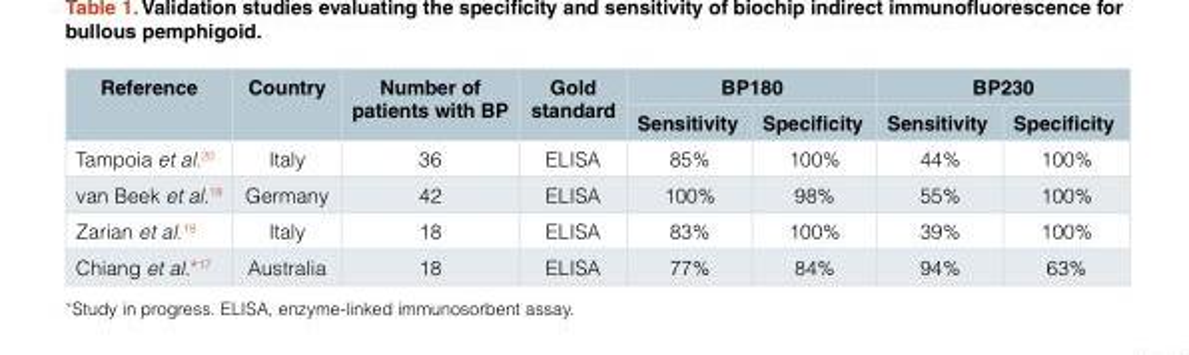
<table><thead><tr><td rowspan="2">Reference</td><td rowspan="2">Country</td><td rowspan="2">Number of patients with BP</td><td rowspan="2">Gold standard</td><td colspan="2">BP180</td><td colspan="2">BP230</td></tr><tr><td>Sensitivity</td><td>Specificity</td><td>Sensitivity</td><td>Specificity</td></tr></thead><tbody><tr><td>Tampoia et al.<sup>20</sup></td><td>Italy</td><td>36</td><td>ELISA</td><td>85%</td><td>100%</td><td>44%</td><td>100%</td></tr><tr><td>van Beek et al.<sup>18</sup></td><td>Germany</td><td>42</td><td>ELISA</td><td>100%</td><td>98%</td><td>55%</td><td>100%</td></tr><tr><td>Zarian et al.<sup>19</sup></td><td>Italy</td><td>18</td><td>ELISA</td><td>83%</td><td>100%</td><td>39%</td><td>100%</td></tr><tr><td>Chiang et al.*<sup>17</sup></td><td>Australia</td><td>18</td><td>ELISA</td><td>77%</td><td>84%</td><td>94%</td><td>63%</td></tr></tbody></table>